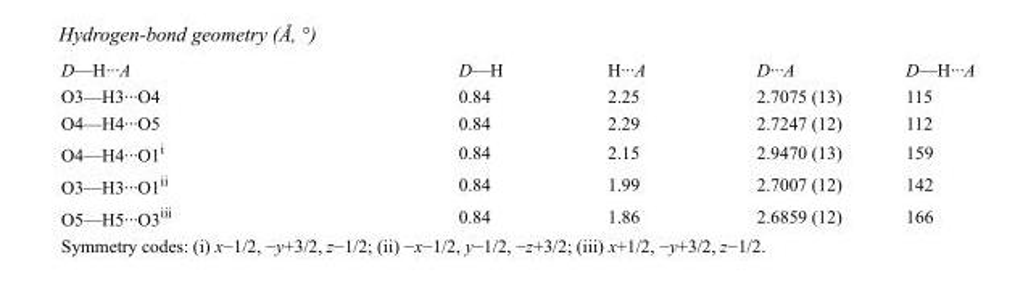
<table><tbody><tr><td>D—H···A</td><td>D—H</td><td>H···A</td><td>D···A</td><td>D—H···A</td></tr><tr><td>O3—H3···O4</td><td>0.84</td><td>2.25</td><td>2.7075 (13)</td><td>115</td></tr><tr><td>O4—H4···O5</td><td>0.84</td><td>2.29</td><td>2.7247 (12)</td><td>112</td></tr><tr><td>O4—H4···O1<sup>i</sup></td><td>0.84</td><td>2.15</td><td>2.9470 (13)</td><td>159</td></tr><tr><td>O3—H3···O1<sup>ii</sup></td><td>0.84</td><td>1.99</td><td>2.7007 (12)</td><td>142</td></tr><tr><td>O5—H5···O3<sup>iii</sup></td><td>0.84</td><td>1.86</td><td>2.6859 (12)</td><td>166</td></tr></tbody></table>